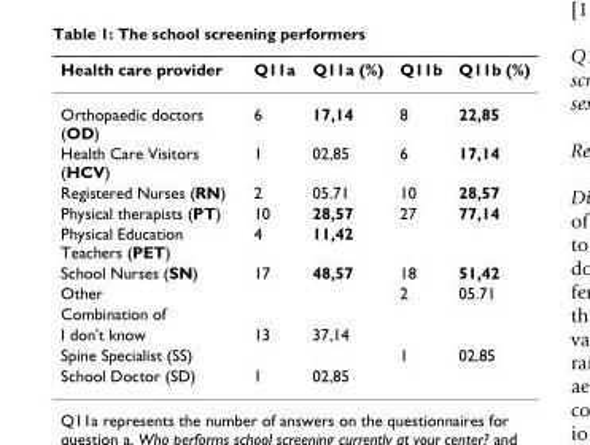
<table><thead><tr><td>Health care provider</td><td>Q11a</td><td>Q11a (%)</td><td>Q11b</td><td>Q11b (%)</td></tr></thead><tbody><tr><td>Orthopaedic doctors (OD)</td><td>6</td><td>17,14</td><td>8</td><td>22,85</td></tr><tr><td>Health Care Visitors (HCV)</td><td>1</td><td>02,85</td><td>6</td><td>17,14</td></tr><tr><td>Registered Nurses (RN)</td><td>2</td><td>05.71</td><td>10</td><td>28,57</td></tr><tr><td>Physical therapists (PT)</td><td>10</td><td>28,57</td><td>27</td><td>77,14</td></tr><tr><td>Physical Education Teachers (PET)</td><td>4</td><td>11,42</td><td></td><td></td></tr><tr><td>School Nurses (SN)</td><td>17</td><td>48,57</td><td>18</td><td>51,42</td></tr><tr><td>Other</td><td></td><td></td><td>2</td><td>05.71</td></tr><tr><td colspan="5">Combination of</td></tr><tr><td>I don&#x27;t know</td><td>13</td><td>37,14</td><td></td><td></td></tr><tr><td>Spine Specialist (SS)</td><td></td><td></td><td>1</td><td>02,85</td></tr><tr><td>School Doctor (SD)</td><td>1</td><td>02,85</td><td></td><td></td></tr></tbody></table>